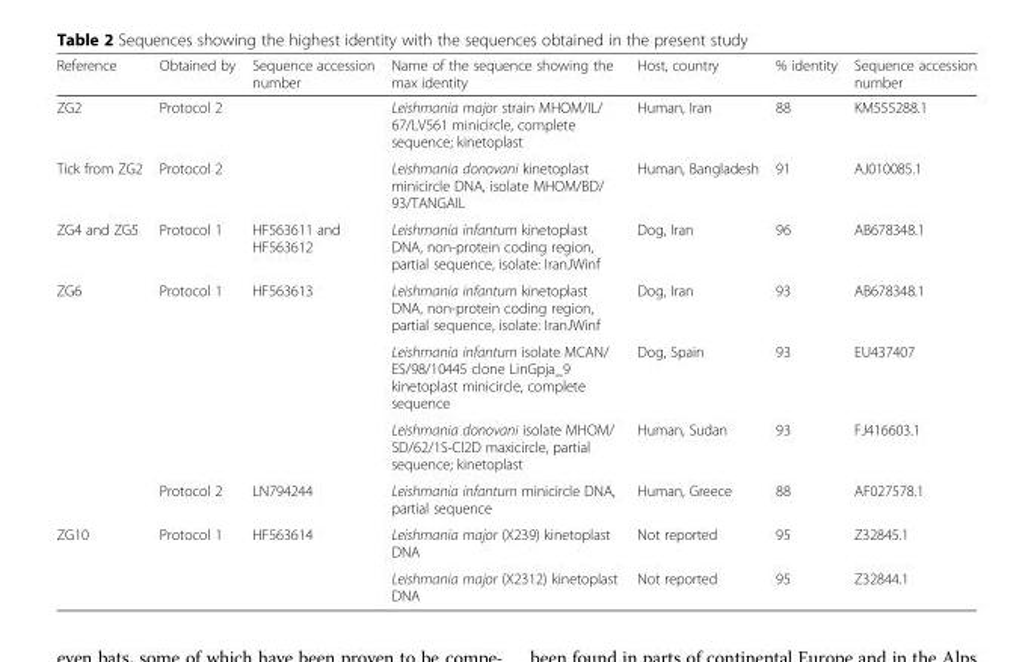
<table><thead><tr><td>Reference</td><td>Obtained by</td><td>Sequence accession number</td><td>Name of the sequence showing the max identity</td><td>Host, country</td><td>% identity</td><td>Sequence accession number</td></tr></thead><tbody><tr><td>ZG2</td><td>Protocol 2</td><td></td><td>Leishmania major strain MHOM/IL/ 67/LV561 minicircle, complete sequence; kinetoplast</td><td>Human, Iran</td><td>88</td><td>KM555288.1</td></tr><tr><td>Tick from ZG2</td><td>Protocol 2</td><td></td><td>Leishmania donovani kinetoplast minicircle DNA, isolate MHOM/BD/ 93/TANGAIL</td><td>Human, Bangladesh</td><td>91</td><td>AJ010085.1</td></tr><tr><td>ZG4 and ZG5</td><td>Protocol 1</td><td>HF563611 and HF563612</td><td>Leishmania infantum kinetoplast DNA, non-protein coding region, partial sequence, isolate: IranJWinf</td><td>Dog, Iran</td><td>96</td><td>AB678348.1</td></tr><tr><td rowspan="4">ZG6</td><td>Protocol 1</td><td>HF563613</td><td>Leishmania infantum kinetoplast DNA, non-protein coding region, partial sequence, isolate: IranJWinf</td><td>Dog, Iran</td><td>93</td><td>AB678348.1</td></tr><tr><td></td><td></td><td>Leishmania infantum isolate MCAN/ ES/98/10445 clone LinGpja_9 kinetoplast minicircle, complete sequence</td><td>Dog, Spain</td><td>93</td><td>EU437407</td></tr><tr><td></td><td></td><td>Leishmania donovani isolate MHOM/ SD/62/1S-Cl2D maxicircle, partial sequence; kinetoplast</td><td>Human, Sudan</td><td>93</td><td>FJ416603.1</td></tr><tr><td>Protocol 2</td><td>LN794244</td><td>Leishmania infantum minicircle DNA, partial sequence</td><td>Human, Greece</td><td>88</td><td>AF027578.1</td></tr><tr><td rowspan="2">ZG10</td><td>Protocol 1</td><td>HF563614</td><td>Leishmania major (X239) kinetoplast DNA</td><td>Not reported</td><td>95</td><td>Z32845.1</td></tr><tr><td></td><td></td><td>Leishmania major (X2312) kinetoplast DNA</td><td>Not reported</td><td>95</td><td>Z32844.1</td></tr></tbody></table>